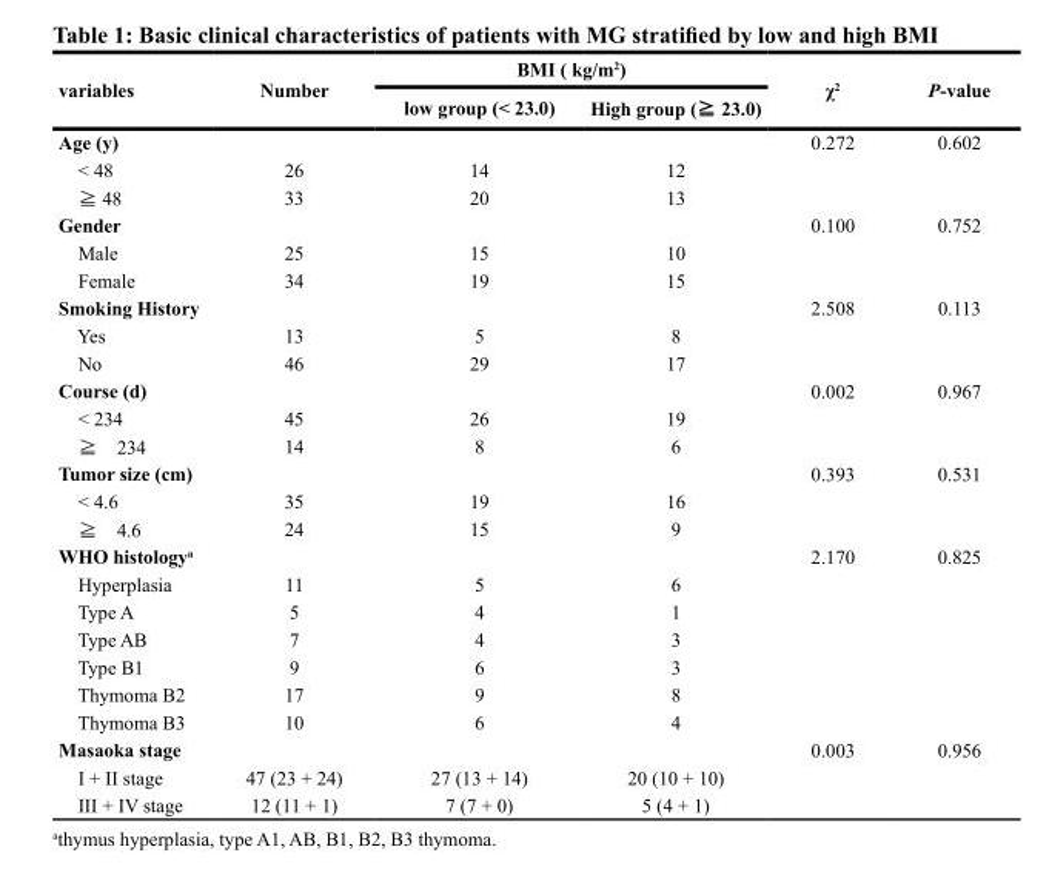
<table><thead><tr><td rowspan="2">variables</td><td rowspan="2">Number</td><td colspan="2">BMI ( kg/m<sup>2</sup>)</td><td rowspan="2">χ<sup>2</sup></td><td rowspan="2">P-value</td></tr><tr><td>low group (&lt; 23.0)</td><td>High group (≧ 23.0)</td></tr></thead><tbody><tr><td>Age (y)</td><td></td><td></td><td></td><td>0.272</td><td>0.602</td></tr><tr><td>&lt; 48</td><td>26</td><td>14</td><td>12</td><td></td><td></td></tr><tr><td>≧ 48</td><td>33</td><td>20</td><td>13</td><td></td><td></td></tr><tr><td>Gender</td><td></td><td></td><td></td><td>0.100</td><td>0.752</td></tr><tr><td>Male</td><td>25</td><td>15</td><td>10</td><td></td><td></td></tr><tr><td>Female</td><td>34</td><td>19</td><td>15</td><td></td><td></td></tr><tr><td>Smoking History</td><td></td><td></td><td></td><td>2.508</td><td>0.113</td></tr><tr><td>Yes</td><td>13</td><td>5</td><td>8</td><td></td><td></td></tr><tr><td>No</td><td>46</td><td>29</td><td>17</td><td></td><td></td></tr><tr><td>Course (d)</td><td></td><td></td><td></td><td>0.002</td><td>0.967</td></tr><tr><td>&lt; 234</td><td>45</td><td>26</td><td>19</td><td></td><td></td></tr><tr><td>≧ 234</td><td>14</td><td>8</td><td>6</td><td></td><td></td></tr><tr><td>Tumor size (cm)</td><td></td><td></td><td></td><td>0.393</td><td>0.531</td></tr><tr><td>&lt; 4.6</td><td>35</td><td>19</td><td>16</td><td></td><td></td></tr><tr><td>≧ 4.6</td><td>24</td><td>15</td><td>9</td><td></td><td></td></tr><tr><td>WHO histology<sup>a</sup></td><td></td><td></td><td></td><td>2.170</td><td>0.825</td></tr><tr><td>Hyperplasia</td><td>11</td><td>5</td><td>6</td><td></td><td></td></tr><tr><td>Type A</td><td>5</td><td>4</td><td>1</td><td></td><td></td></tr><tr><td>Type AB</td><td>7</td><td>4</td><td>3</td><td></td><td></td></tr><tr><td>Type B1</td><td>9</td><td>6</td><td>3</td><td></td><td></td></tr><tr><td>Thymoma B2</td><td>17</td><td>9</td><td>8</td><td></td><td></td></tr><tr><td>Thymoma B3</td><td>10</td><td>6</td><td>4</td><td></td><td></td></tr><tr><td>Masaoka stage</td><td></td><td></td><td></td><td>0.003</td><td>0.956</td></tr><tr><td>I + II stage</td><td>47 (23 + 24)</td><td>27 (13 + 14)</td><td>20 (10 + 10)</td><td></td><td></td></tr><tr><td>III + IV stage</td><td>12 (11 + 1)</td><td>7 (7 + 0)</td><td>5 (4 + 1)</td><td></td><td></td></tr></tbody></table>